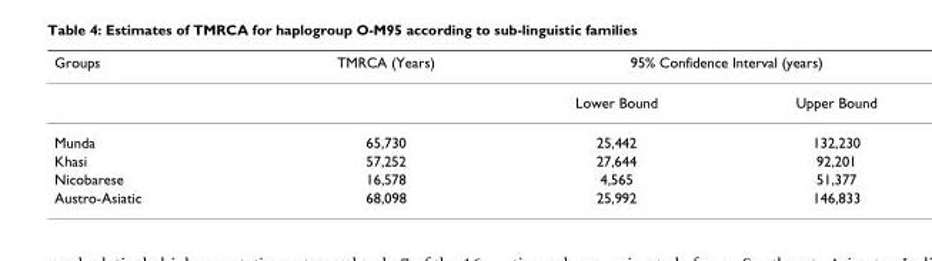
<table><thead><tr><td rowspan="2">Groups</td><td rowspan="2">TMRCA (Years)</td><td colspan="2">95% Confidence Interval (years)</td></tr><tr><td>Lower Bound</td><td>Upper Bound</td></tr></thead><tbody><tr><td>Munda</td><td>65,730</td><td>25,442</td><td>132,230</td></tr><tr><td>Khasi</td><td>57,252</td><td>27,644</td><td>92,201</td></tr><tr><td>Nicobarese</td><td>16,578</td><td>4,565</td><td>51,377</td></tr><tr><td>Austro-Asiatic</td><td>68,098</td><td>25,992</td><td>146,833</td></tr></tbody></table>